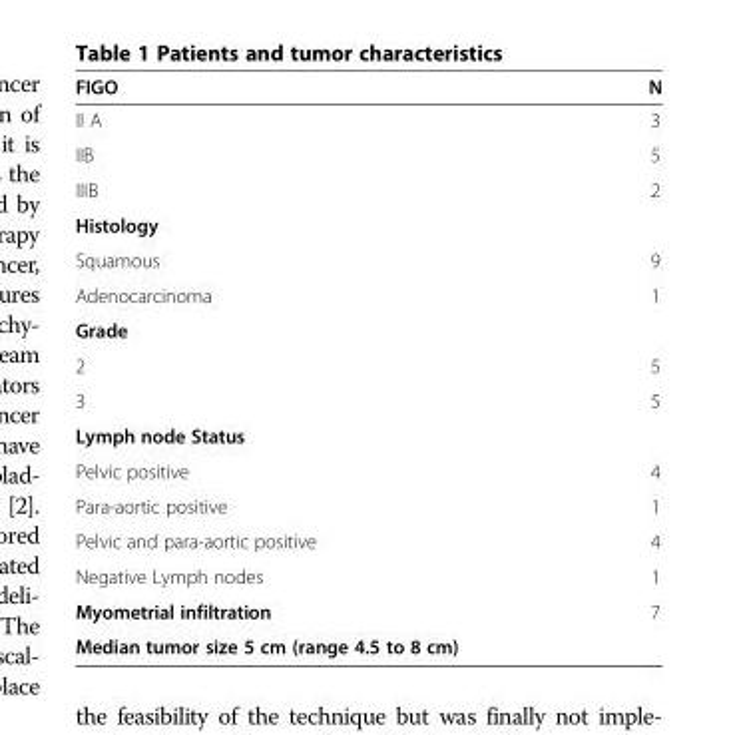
<table><thead><tr><td>FIGO</td><td>N</td></tr></thead><tbody><tr><td>II A</td><td>3</td></tr><tr><td>IIB</td><td>5</td></tr><tr><td>IIIB</td><td>2</td></tr><tr><td colspan="2">Histology</td></tr><tr><td>Squamous</td><td>9</td></tr><tr><td>Adenocarcinoma</td><td>1</td></tr><tr><td colspan="2">Grade</td></tr><tr><td>2</td><td>5</td></tr><tr><td>3</td><td>5</td></tr><tr><td colspan="2">Lymph node Status</td></tr><tr><td>Pelvic positive</td><td>4</td></tr><tr><td>Para-aortic positive</td><td>1</td></tr><tr><td>Pelvic and para-aortic positive</td><td>4</td></tr><tr><td>Negative Lymph nodes</td><td>1</td></tr><tr><td>Myometrial infiltration</td><td>7</td></tr><tr><td>Median tumor size 5 cm (range 4.5 to 8 cm)</td><td></td></tr></tbody></table>